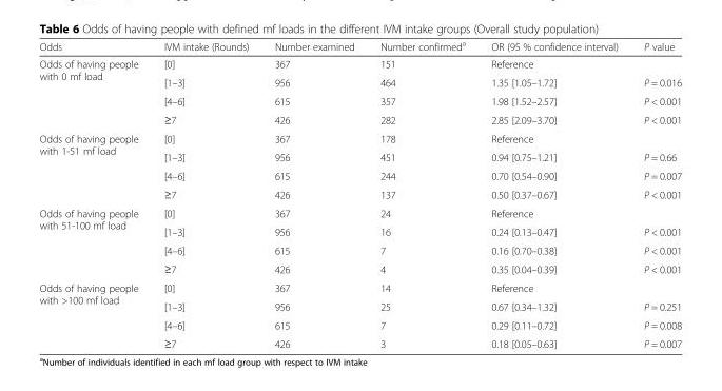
<table><thead><tr><td>Odds</td><td>IVM intake (Rounds)</td><td>Number examined</td><td>Number confirmed<sup>a</sup></td><td>OR (95 % confidence interval)</td><td>P value</td></tr></thead><tbody><tr><td rowspan="4">Odds of having people with 0 mf load</td><td>[0]</td><td>367</td><td>151</td><td>Reference</td><td></td></tr><tr><td>[1–3]</td><td>956</td><td>464</td><td>1.35 [1.05–1.72]</td><td>P = 0.016</td></tr><tr><td>[4–6]</td><td>615</td><td>357</td><td>1.98 [1.52–2.57]</td><td>P &lt; 0.001</td></tr><tr><td>≥7</td><td>426</td><td>282</td><td>2.85 [2.09–3.70]</td><td>P &lt; 0.001</td></tr><tr><td rowspan="4">Odds of having people with 1-51 mf load</td><td>[0]</td><td>367</td><td>178</td><td>Reference</td><td></td></tr><tr><td>[1–3]</td><td>956</td><td>451</td><td>0.94 [0.75–1.21]</td><td>P = 0.66</td></tr><tr><td>[4–6]</td><td>615</td><td>244</td><td>0.70 [0.54–0.90]</td><td>P = 0.007</td></tr><tr><td>≥7</td><td>426</td><td>137</td><td>0.50 [0.37–0.67]</td><td>P &lt; 0.001</td></tr><tr><td rowspan="4">Odds of having people with 51-100 mf load</td><td>[0]</td><td>367</td><td>24</td><td>Reference</td><td></td></tr><tr><td>[1–3]</td><td>956</td><td>16</td><td>0.24 [0.13–0.47]</td><td>P &lt; 0.001</td></tr><tr><td>[4–6]</td><td>615</td><td>7</td><td>0.16 [0.70–0.38]</td><td>P &lt; 0.001</td></tr><tr><td>≥7</td><td>426</td><td>4</td><td>0.35 [0.04–0.39]</td><td>P &lt; 0.001</td></tr><tr><td rowspan="4">Odds of having people with &gt;100 mf load</td><td>[0]</td><td>367</td><td>14</td><td>Reference</td><td></td></tr><tr><td>[1–3]</td><td>956</td><td>25</td><td>0.67 [0.34–1.32]</td><td>P = 0.251</td></tr><tr><td>[4–6]</td><td>615</td><td>7</td><td>0.29 [0.11–0.72]</td><td>P = 0.008</td></tr><tr><td>≥7</td><td>426</td><td>3</td><td>0.18 [0.05–0.63]</td><td>P = 0.007</td></tr></tbody></table>